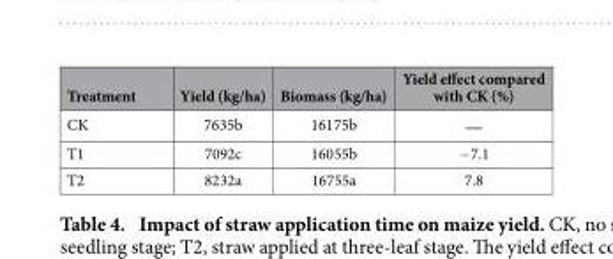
<table><thead><tr><td>Treatment</td><td>Yield (kg/ha)</td><td>Biomass (kg/ha)</td><td>Yield effect compared with CK (%)</td></tr></thead><tbody><tr><td>CK</td><td>7635b</td><td>16175b</td><td>—</td></tr><tr><td>T1</td><td>7092c</td><td>16055b</td><td>− 7.1</td></tr><tr><td>T2</td><td>8232a</td><td>16755a</td><td>7.8</td></tr></tbody></table>